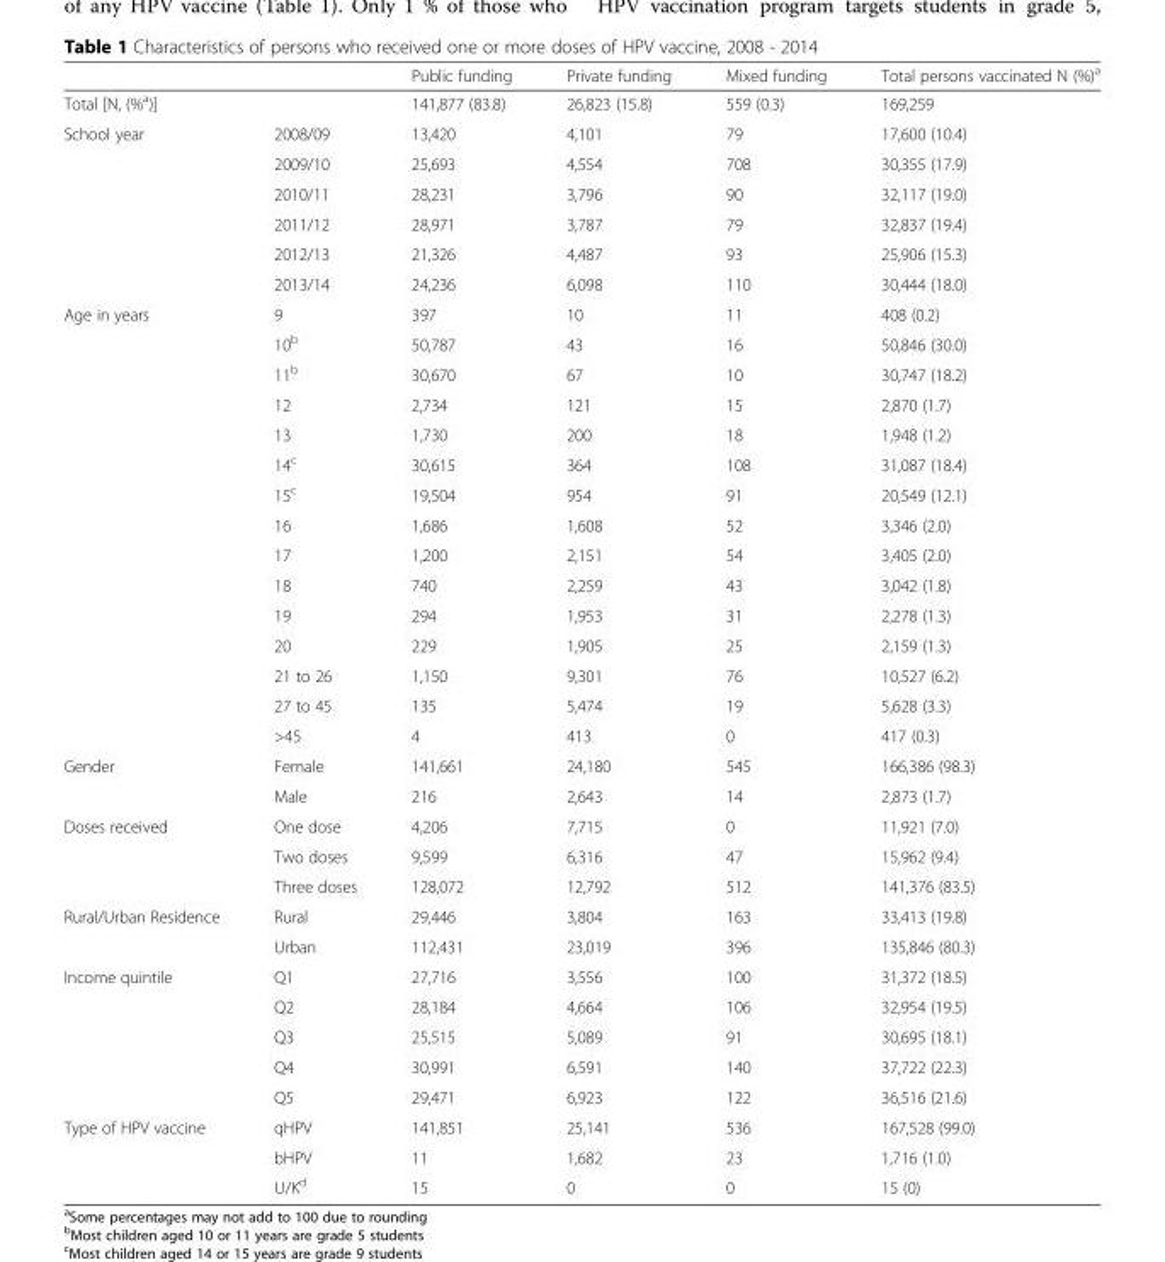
<table><thead><tr><td></td><td></td><td>Public funding</td><td>Private funding</td><td>Mixed funding</td><td>Total persons vaccinated N (%)<sup>a</sup></td></tr></thead><tbody><tr><td>Total [N, (%<sup>a</sup>)]</td><td></td><td>141,877 (83.8)</td><td>26,823 (15.8)</td><td>559 (0.3)</td><td>169,259</td></tr><tr><td rowspan="6">School year</td><td>2008/09</td><td>13,420</td><td>4,101</td><td>79</td><td>17,600 (10.4)</td></tr><tr><td>2009/10</td><td>25,693</td><td>4,554</td><td>708</td><td>30,355 (17.9)</td></tr><tr><td>2010/11</td><td>28,231</td><td>3,796</td><td>90</td><td>32,117 (19.0)</td></tr><tr><td>2011/12</td><td>28,971</td><td>3,787</td><td>79</td><td>32,837 (19.4)</td></tr><tr><td>2012/13</td><td>21,326</td><td>4,487</td><td>93</td><td>25,906 (15.3)</td></tr><tr><td>2013/14</td><td>24,236</td><td>6,098</td><td>110</td><td>30,444 (18.0)</td></tr><tr><td rowspan="15">Age in years</td><td>9</td><td>397</td><td>10</td><td>11</td><td>408 (0.2)</td></tr><tr><td>10<sup>b</sup></td><td>50,787</td><td>43</td><td>16</td><td>50,846 (30.0)</td></tr><tr><td>11<sup>b</sup></td><td>30,670</td><td>67</td><td>10</td><td>30,747 (18.2)</td></tr><tr><td>12</td><td>2,734</td><td>121</td><td>15</td><td>2,870 (1.7)</td></tr><tr><td>13</td><td>1,730</td><td>200</td><td>18</td><td>1,948 (1.2)</td></tr><tr><td>14<sup>c</sup></td><td>30,615</td><td>364</td><td>108</td><td>31,087 (18.4)</td></tr><tr><td>15<sup>c</sup></td><td>19,504</td><td>954</td><td>91</td><td>20,549 (12.1)</td></tr><tr><td>16</td><td>1,686</td><td>1,608</td><td>52</td><td>3,346 (2.0)</td></tr><tr><td>17</td><td>1,200</td><td>2,151</td><td>54</td><td>3,405 (2.0)</td></tr><tr><td>18</td><td>740</td><td>2,259</td><td>43</td><td>3,042 (1.8)</td></tr><tr><td>19</td><td>294</td><td>1,953</td><td>31</td><td>2,278 (1.3)</td></tr><tr><td>20</td><td>229</td><td>1,905</td><td>25</td><td>2,159 (1.3)</td></tr><tr><td>21 to 26</td><td>1,150</td><td>9,301</td><td>76</td><td>10,527 (6.2)</td></tr><tr><td>27 to 45</td><td>135</td><td>5,474</td><td>19</td><td>5,628 (3.3)</td></tr><tr><td>&gt;45</td><td>4</td><td>413</td><td>0</td><td>417 (0.3)</td></tr><tr><td rowspan="2">Gender</td><td>Female</td><td>141,661</td><td>24,180</td><td>545</td><td>166,386 (98.3)</td></tr><tr><td>Male</td><td>216</td><td>2,643</td><td>14</td><td>2,873 (1.7)</td></tr><tr><td rowspan="3">Doses received</td><td>One dose</td><td>4,206</td><td>7,715</td><td>0</td><td>11,921 (7.0)</td></tr><tr><td>Two doses</td><td>9,599</td><td>6,316</td><td>47</td><td>15,962 (9.4)</td></tr><tr><td>Three doses</td><td>128,072</td><td>12,792</td><td>512</td><td>141,376 (83.5)</td></tr><tr><td rowspan="2">Rural/Urban Residence</td><td>Rural</td><td>29,446</td><td>3,804</td><td>163</td><td>33,413 (19.8)</td></tr><tr><td>Urban</td><td>112,431</td><td>23,019</td><td>396</td><td>135,846 (80.3)</td></tr><tr><td rowspan="5">Income quintile</td><td>Q1</td><td>27,716</td><td>3,556</td><td>100</td><td>31,372 (18.5)</td></tr><tr><td>Q2</td><td>28,184</td><td>4,664</td><td>106</td><td>32,954 (19.5)</td></tr><tr><td>Q3</td><td>25,515</td><td>5,089</td><td>91</td><td>30,695 (18.1)</td></tr><tr><td>Q4</td><td>30,991</td><td>6,591</td><td>140</td><td>37,722 (22.3)</td></tr><tr><td>Q5</td><td>29,471</td><td>6,923</td><td>122</td><td>36,516 (21.6)</td></tr><tr><td rowspan="3">Type of HPV vaccine</td><td>qHPV</td><td>141,851</td><td>25,141</td><td>536</td><td>167,528 (99.0)</td></tr><tr><td>bHPV</td><td>11</td><td>1,682</td><td>23</td><td>1,716 (1.0)</td></tr><tr><td>U/K<sup>d</sup></td><td>15</td><td>0</td><td>0</td><td>15 (0)</td></tr></tbody></table>